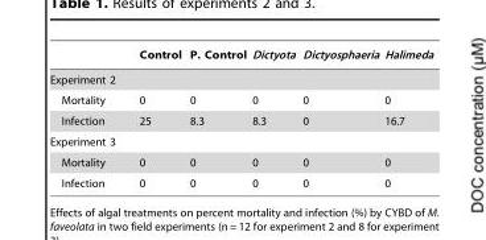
<table><thead><tr><td></td><td>Control</td><td>P. Control</td><td>Dictyota</td><td>Dictyosphaeria</td><td>Halimeda</td></tr></thead><tbody><tr><td colspan="6">Experiment 2</td></tr><tr><td>Mortality</td><td>0</td><td>0</td><td>0</td><td>0</td><td>0</td></tr><tr><td>Infection</td><td>25</td><td>8.3</td><td>8.3</td><td>0</td><td>16.7</td></tr><tr><td colspan="6">Experiment 3</td></tr><tr><td>Mortality</td><td>0</td><td>0</td><td>0</td><td>0</td><td>0</td></tr><tr><td>Infection</td><td>0</td><td>0</td><td>0</td><td>0</td><td>0</td></tr></tbody></table>